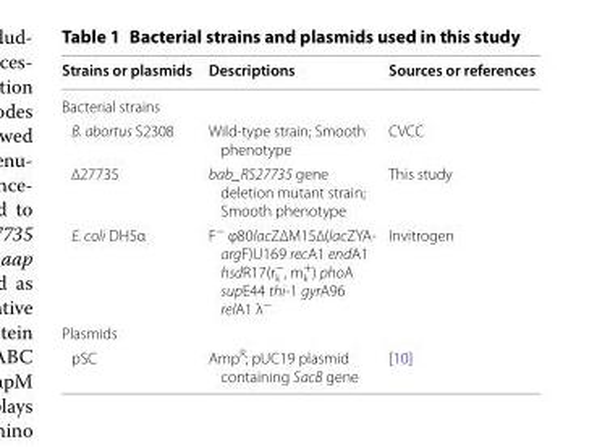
<table><thead><tr><td>Strains or plasmids</td><td>Descriptions</td><td>Sources or references</td></tr></thead><tbody><tr><td colspan="3">Bacterial strains</td></tr><tr><td>B. abortus S2308</td><td>Wild-type strain; Smooth phenotype</td><td>CVCC</td></tr><tr><td>∆27735</td><td>bab_RS27735 gene deletion mutant strain; Smooth phenotype</td><td>This study</td></tr><tr><td>E. coli DH5α</td><td>F<sup>−</sup> φ80lacZ∆M15∆(lacZYA- argF)U169 recA1 endA1 hsdR17(r<sub>k</sub> <sup>−</sup>, m<sub>k</sub> <sup>+</sup>) phoA supE44 thi-1 gyrA96 relA1 λ<sup>−</sup></td><td>Invitrogen</td></tr><tr><td colspan="3">Plasmids</td></tr><tr><td>pSC</td><td>Amp<sup>R</sup>; pUC19 plasmid containing SacB gene</td><td>[10]</td></tr></tbody></table>